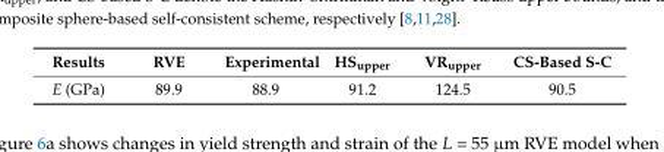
<table><thead><tr><td>Results</td><td>RVE</td><td>Experimental</td><td>HS<sub>upper</sub></td><td>VR<sub>upper</sub></td><td>CS-Based S-C</td></tr></thead><tbody><tr><td>E (GPa)</td><td>89.9</td><td>88.9</td><td>91.2</td><td>124.5</td><td>90.5</td></tr></tbody></table>